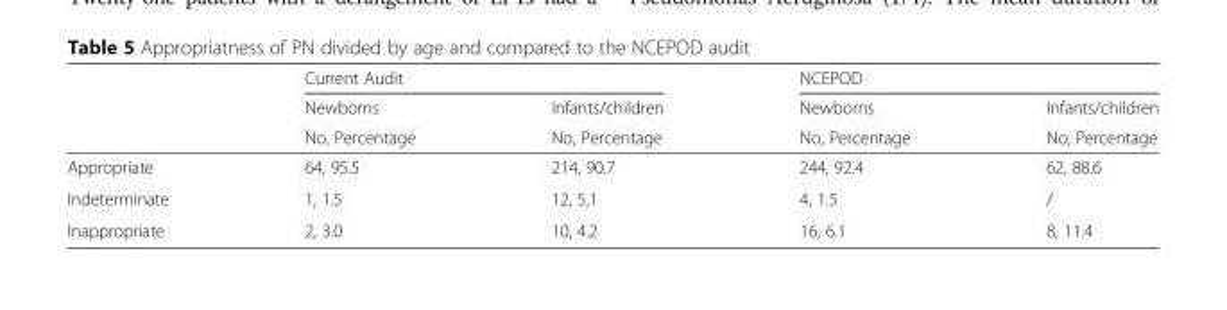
<table><thead><tr><td rowspan="3"></td><td colspan="2">Current Audit</td><td colspan="2">NCEPOD</td></tr><tr><td rowspan="2">Newborns No, Percentage</td><td rowspan="2">Infants/children No, Percentage</td><td rowspan="2">Newborns No, Percentage</td><td rowspan="2">Infants/children No, Percentage</td></tr><tr></tr></thead><tbody><tr><td>Appropriate</td><td>64, 95.5</td><td>214, 90.7</td><td>244, 92.4</td><td>62, 88.6</td></tr><tr><td>Indeterminate</td><td>1, 1.5</td><td>12, 5,1</td><td>4, 1.5</td><td>/</td></tr><tr><td>Inappropriate</td><td>2, 3.0</td><td>10, 4.2</td><td>16, 6.1</td><td>8, 11.4</td></tr></tbody></table>